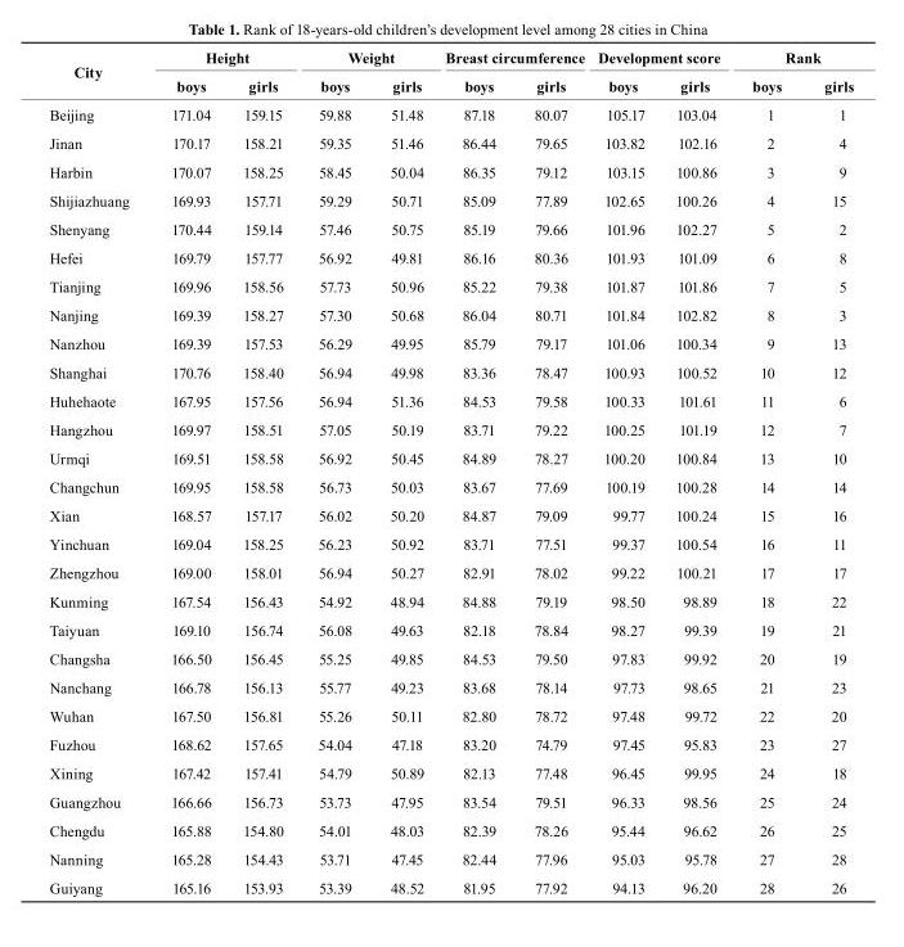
<table><thead><tr><td rowspan="2">city</td><td colspan="2">Height</td><td colspan="2">Weight</td><td colspan="2">breast circumference</td><td colspan="2">Development score</td><td colspan="2">rank</td></tr><tr><td>boys</td><td>girls</td><td>boys</td><td>girls</td><td>boys</td><td>girls</td><td>boys</td><td>girls</td><td>boys</td><td>girls</td></tr></thead><tbody><tr><td>Beijing</td><td>171.04</td><td>159.15</td><td>59.88</td><td>51.48</td><td>87.18</td><td>80.07</td><td>105.17</td><td>103.04</td><td>1</td><td>1</td></tr><tr><td>Jinan</td><td>170.17</td><td>158.21</td><td>59.35</td><td>51.46</td><td>86.44</td><td>79.65</td><td>103.82</td><td>102.16</td><td>2</td><td>4</td></tr><tr><td>Harbin</td><td>170.07</td><td>158.25</td><td>58.45</td><td>50.04</td><td>86.35</td><td>79.12</td><td>103.15</td><td>100.86</td><td>3</td><td>9</td></tr><tr><td>Shijiazhuang</td><td>169.93</td><td>157.71</td><td>59.29</td><td>50.71</td><td>85.09</td><td>77.89</td><td>102.65</td><td>100.26</td><td>4</td><td>15</td></tr><tr><td>Shenyang</td><td>170.44</td><td>159.14</td><td>57.46</td><td>50.75</td><td>85.19</td><td>79.66</td><td>101.96</td><td>102.27</td><td>5</td><td>2</td></tr><tr><td>Hefei</td><td>169.79</td><td>157.77</td><td>56.92</td><td>49.81</td><td>86.16</td><td>80.36</td><td>101.93</td><td>101.09</td><td>6</td><td>8</td></tr><tr><td>Tianjing</td><td>169.96</td><td>158.56</td><td>57.73</td><td>50.96</td><td>85.22</td><td>79.38</td><td>101.87</td><td>101.86</td><td>7</td><td>5</td></tr><tr><td>Nanjing</td><td>169.39</td><td>158.27</td><td>57.30</td><td>50.68</td><td>86.04</td><td>80.71</td><td>101.84</td><td>102.82</td><td>8</td><td>3</td></tr><tr><td>Nanzhou</td><td>169.39</td><td>157.53</td><td>56.29</td><td>49.95</td><td>85.79</td><td>79.17</td><td>101.06</td><td>100.34</td><td>9</td><td>13</td></tr><tr><td>Shanghai</td><td>170.76</td><td>158.40</td><td>56.94</td><td>49.98</td><td>83.36</td><td>78.47</td><td>100.93</td><td>100.52</td><td>10</td><td>12</td></tr><tr><td>Huhehaote</td><td>167.95</td><td>157.56</td><td>56.94</td><td>51.36</td><td>84.53</td><td>79.58</td><td>100.33</td><td>101.61</td><td>11</td><td>6</td></tr><tr><td>Hangzhou</td><td>169.97</td><td>158.51</td><td>57.05</td><td>50.19</td><td>83.71</td><td>79.22</td><td>100.25</td><td>101.19</td><td>12</td><td>7</td></tr><tr><td>Urmqi</td><td>169.51</td><td>158.58</td><td>56.92</td><td>50.45</td><td>84.89</td><td>78.27</td><td>100.20</td><td>100.84</td><td>13</td><td>10</td></tr><tr><td>Changchun</td><td>169.95</td><td>158.58</td><td>56.73</td><td>50.03</td><td>83.67</td><td>77.69</td><td>100.19</td><td>100.28</td><td>14</td><td>14</td></tr><tr><td>Xian</td><td>168.57</td><td>157.17</td><td>56.02</td><td>50.20</td><td>84.87</td><td>79.09</td><td>99.77</td><td>100.24</td><td>15</td><td>16</td></tr><tr><td>Yinchuan</td><td>169.04</td><td>158.25</td><td>56.23</td><td>50.92</td><td>83.71</td><td>77.51</td><td>99.37</td><td>100.54</td><td>16</td><td>11</td></tr><tr><td>Zhengzhou</td><td>169.00</td><td>158.01</td><td>56.94</td><td>50.27</td><td>82.91</td><td>78.02</td><td>99.22</td><td>100.21</td><td>17</td><td>17</td></tr><tr><td>Kunming</td><td>167.54</td><td>156.43</td><td>54.92</td><td>48.94</td><td>84.88</td><td>79.19</td><td>98.50</td><td>98.89</td><td>18</td><td>22</td></tr><tr><td>Taiyuan</td><td>169.10</td><td>156.74</td><td>56.08</td><td>49.63</td><td>82.18</td><td>78.84</td><td>98.27</td><td>99.39</td><td>19</td><td>21</td></tr><tr><td>Changsha</td><td>166.50</td><td>156.45</td><td>55.25</td><td>49.85</td><td>84.53</td><td>79.50</td><td>97.83</td><td>99.92</td><td>20</td><td>19</td></tr><tr><td>Nanchang</td><td>166.78</td><td>156.13</td><td>55.77</td><td>49.23</td><td>83.68</td><td>78.14</td><td>97.73</td><td>98.65</td><td>21</td><td>23</td></tr><tr><td>Wuhan</td><td>167.50</td><td>156.81</td><td>55.26</td><td>50.11</td><td>82.80</td><td>78.72</td><td>97.48</td><td>99.72</td><td>22</td><td>20</td></tr><tr><td>Fuzhou</td><td>168.62</td><td>157.65</td><td>54.04</td><td>47.18</td><td>83.20</td><td>74.79</td><td>97.45</td><td>95.83</td><td>23</td><td>27</td></tr><tr><td>Xining</td><td>167.42</td><td>157.41</td><td>54.79</td><td>50.89</td><td>82.13</td><td>77.48</td><td>96.45</td><td>99.95</td><td>24</td><td>18</td></tr><tr><td>Guangzhou</td><td>166.66</td><td>156.73</td><td>53.73</td><td>47.95</td><td>83.54</td><td>79.51</td><td>96.33</td><td>98.56</td><td>25</td><td>24</td></tr><tr><td>Chengdu</td><td>165.88</td><td>154.80</td><td>54.01</td><td>48.03</td><td>82.39</td><td>78.26</td><td>95.44</td><td>96.62</td><td>26</td><td>25</td></tr><tr><td>Nanning</td><td>165.28</td><td>154.43</td><td>53.71</td><td>47.45</td><td>82.44</td><td>77.96</td><td>95.03</td><td>95.78</td><td>27</td><td>28</td></tr><tr><td>Guiyang</td><td>165.16</td><td>153.93</td><td>53.39</td><td>48.52</td><td>81.95</td><td>77.92</td><td>94.13</td><td>96.20</td><td>28</td><td>26</td></tr></tbody></table>